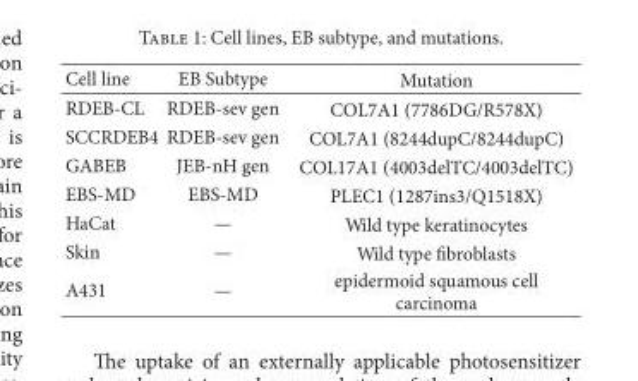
<table><thead><tr><td>Cell line</td><td>EB Subtype</td><td>Mutation</td></tr></thead><tbody><tr><td>RDEB-CL</td><td>RDEB-sev gen</td><td>COL7A1 (7786DG/R578X)</td></tr><tr><td>SCCRDEB4</td><td>RDEB-sev gen</td><td>COL7A1 (8244dupC/8244dupC)</td></tr><tr><td>GABEB</td><td>JEB-nH gen</td><td>COL17A1 (4003delTC/4003delTC)</td></tr><tr><td>EBS-MD</td><td>EBS-MD</td><td>PLEC1 (1287ins3/Q1518X)</td></tr><tr><td>HaCat</td><td>—</td><td>Wild type keratinocytes</td></tr><tr><td>Skin</td><td>—</td><td>Wild type �broblasts</td></tr><tr><td>A431</td><td>—</td><td>epidermoid squamous cell carcinoma</td></tr></tbody></table>